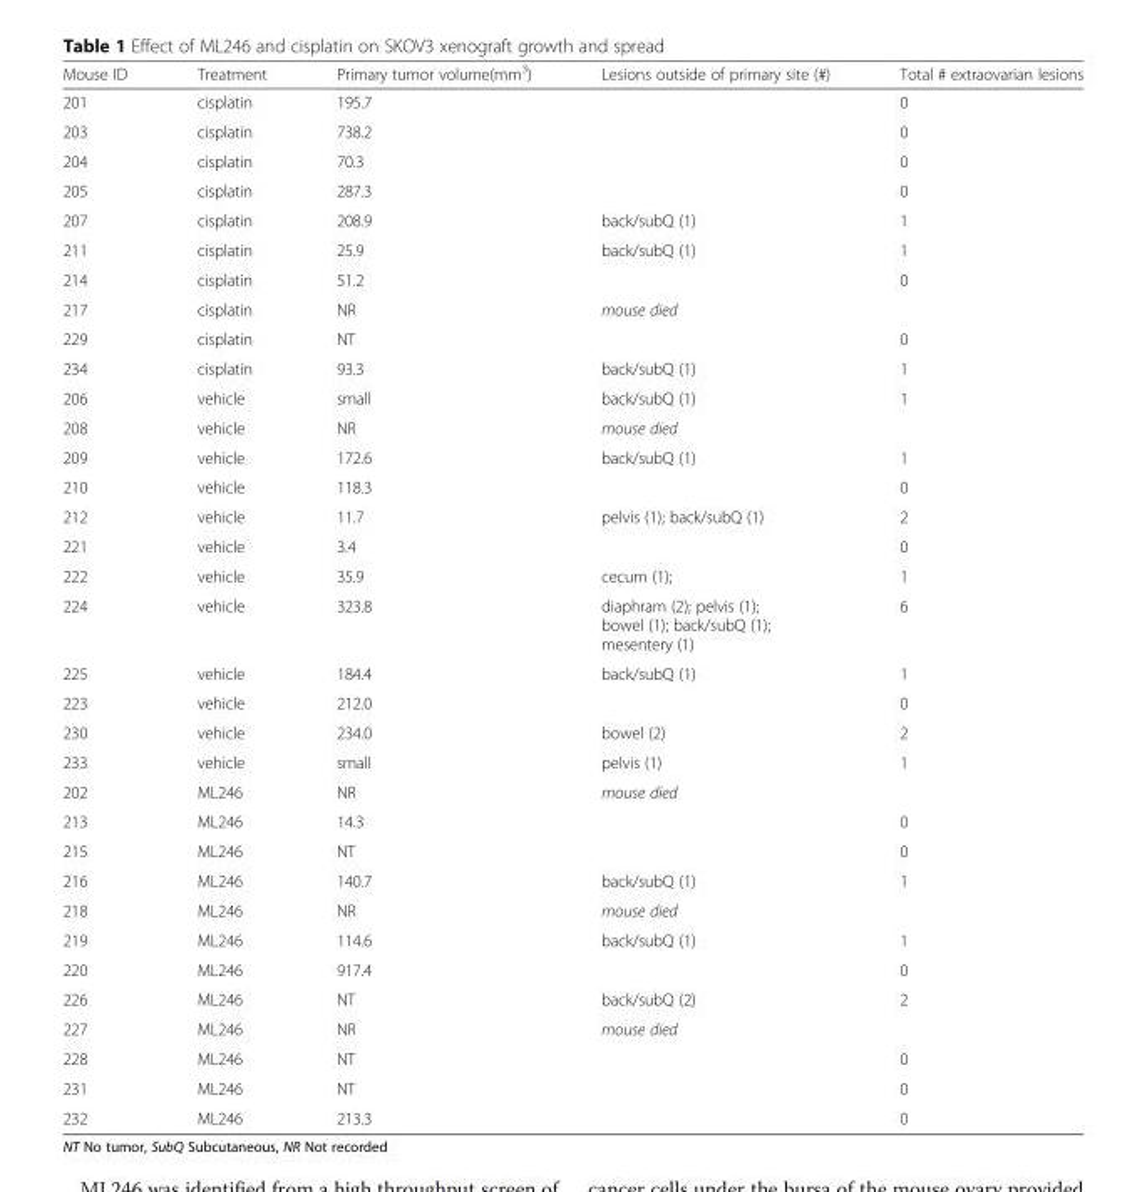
<table><thead><tr><td>Mouse ID</td><td>Treatment</td><td>Primary tumor volume(mm<sup>3</sup>)</td><td>Lesions outside of primary site (#)</td><td>Total # extraovarian lesions</td></tr></thead><tbody><tr><td>201</td><td>cisplatin</td><td>195.7</td><td></td><td>0</td></tr><tr><td>203</td><td>cisplatin</td><td>738.2</td><td></td><td>0</td></tr><tr><td>204</td><td>cisplatin</td><td>70.3</td><td></td><td>0</td></tr><tr><td>205</td><td>cisplatin</td><td>287.3</td><td></td><td>0</td></tr><tr><td>207</td><td>cisplatin</td><td>208.9</td><td>back/subQ (1)</td><td>1</td></tr><tr><td>211</td><td>cisplatin</td><td>25.9</td><td>back/subQ (1)</td><td>1</td></tr><tr><td>214</td><td>cisplatin</td><td>51.2</td><td></td><td>0</td></tr><tr><td>217</td><td>cisplatin</td><td>NR</td><td>mouse died</td><td></td></tr><tr><td>229</td><td>cisplatin</td><td>NT</td><td></td><td>0</td></tr><tr><td>234</td><td>cisplatin</td><td>93.3</td><td>back/subQ (1)</td><td>1</td></tr><tr><td>206</td><td>vehicle</td><td>small</td><td>back/subQ (1)</td><td>1</td></tr><tr><td>208</td><td>vehicle</td><td>NR</td><td>mouse died</td><td></td></tr><tr><td>209</td><td>vehicle</td><td>172.6</td><td>back/subQ (1)</td><td>1</td></tr><tr><td>210</td><td>vehicle</td><td>118.3</td><td></td><td>0</td></tr><tr><td>212</td><td>vehicle</td><td>11.7</td><td>pelvis (1); back/subQ (1)</td><td>2</td></tr><tr><td>221</td><td>vehicle</td><td>3.4</td><td></td><td>0</td></tr><tr><td>222</td><td>vehicle</td><td>35.9</td><td>cecum (1);</td><td>1</td></tr><tr><td>224</td><td>vehicle</td><td>323.8</td><td>diaphram (2); pelvis (1); bowel (1); back/subQ (1); mesentery (1)</td><td>6</td></tr><tr><td>225</td><td>vehicle</td><td>184.4</td><td>back/subQ (1)</td><td>1</td></tr><tr><td>223</td><td>vehicle</td><td>212.0</td><td></td><td>0</td></tr><tr><td>230</td><td>vehicle</td><td>234.0</td><td>bowel (2)</td><td>2</td></tr><tr><td>233</td><td>vehicle</td><td>small</td><td>pelvis (1)</td><td>1</td></tr><tr><td>202</td><td>ML246</td><td>NR</td><td>mouse died</td><td></td></tr><tr><td>213</td><td>ML246</td><td>14.3</td><td></td><td>0</td></tr><tr><td>215</td><td>ML246</td><td>NT</td><td></td><td>0</td></tr><tr><td>216</td><td>ML246</td><td>140.7</td><td>back/subQ (1)</td><td>1</td></tr><tr><td>218</td><td>ML246</td><td>NR</td><td>mouse died</td><td></td></tr><tr><td>219</td><td>ML246</td><td>114.6</td><td>back/subQ (1)</td><td>1</td></tr><tr><td>220</td><td>ML246</td><td>917.4</td><td></td><td>0</td></tr><tr><td>226</td><td>ML246</td><td>NT</td><td>back/subQ (2)</td><td>2</td></tr><tr><td>227</td><td>ML246</td><td>NR</td><td>mouse died</td><td></td></tr><tr><td>228</td><td>ML246</td><td>NT</td><td></td><td>0</td></tr><tr><td>231</td><td>ML246</td><td>NT</td><td></td><td>0</td></tr><tr><td>232</td><td>ML246</td><td>213.3</td><td></td><td>0</td></tr></tbody></table>